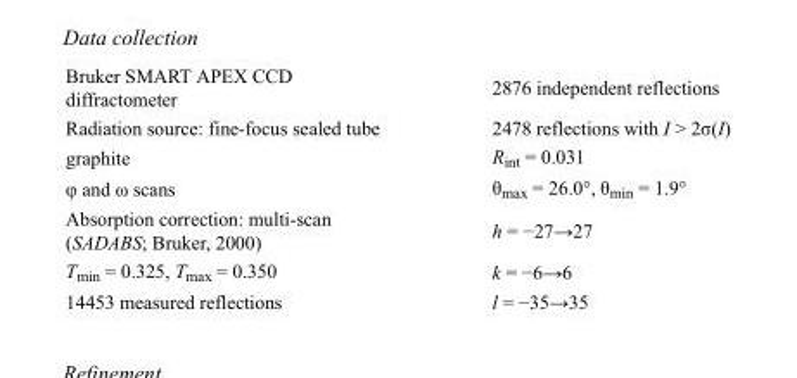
<table><tbody><tr><td>Bruker SMART APEX CCD diffractometer</td><td>2876 independent reflections</td></tr><tr><td>Radiation source: fine-focus sealed tube</td><td>2478 reflections with I &gt; 2σ(I)</td></tr><tr><td>graphite</td><td>R<sub>int</sub> = 0.031</td></tr><tr><td>φ and ω scans</td><td>θ<sub>max</sub> = 26.0°, θ<sub>min</sub> = 1.9°</td></tr><tr><td>Absorption correction: multi-scan (SADABS; Bruker, 2000)</td><td>h = −27→27</td></tr><tr><td>T<sub>min</sub> = 0.325, T<sub>max</sub> = 0.350</td><td>k = −6→6</td></tr><tr><td>14453 measured reflections</td><td>l = −35→35</td></tr></tbody></table>